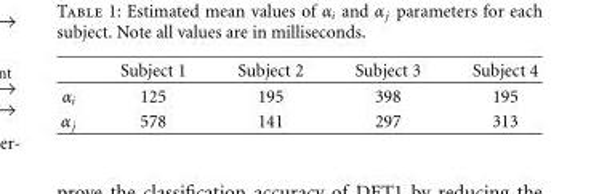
<table><thead><tr><td></td><td>Subject 1</td><td>Subject 2</td><td>Subject 3</td><td>Subject 4</td></tr></thead><tbody><tr><td>α<sub>i</sub></td><td>125</td><td>195</td><td>398</td><td>195</td></tr><tr><td>α<sub>j</sub></td><td>578</td><td>141</td><td>297</td><td>313</td></tr></tbody></table>